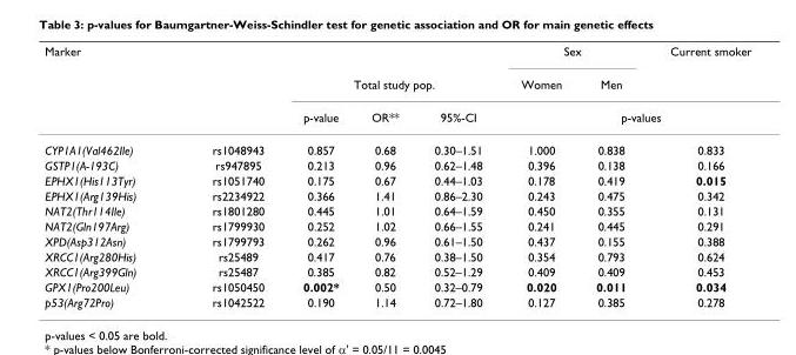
<table><thead><tr><td rowspan="3">Marker</td><td rowspan="3"></td><td></td><td></td><td></td><td colspan="2">Sex</td><td rowspan="2">Current smoker</td></tr><tr><td colspan="3">Total study pop.</td><td>Women</td><td>Men</td></tr><tr><td>p-value</td><td>OR**</td><td>95%-CI</td><td colspan="3">p-values</td></tr></thead><tbody><tr><td>CYP1A1(Val462Ile)</td><td>rs1048943</td><td>0.857</td><td>0.68</td><td>0.30–1.51</td><td>1.000</td><td>0.838</td><td>0.833</td></tr><tr><td>GSTP1(A-193C)</td><td>rs947895</td><td>0.213</td><td>0.96</td><td>0.62–1.48</td><td>0.396</td><td>0.138</td><td>0.166</td></tr><tr><td>EPHX1(His113Tyr)</td><td>rs1051740</td><td>0.175</td><td>0.67</td><td>0.44–1.03</td><td>0.178</td><td>0.419</td><td>0.015</td></tr><tr><td>EPHX1(Arg139His)</td><td>rs2234922</td><td>0.366</td><td>1.41</td><td>0.86–2.30</td><td>0.243</td><td>0.475</td><td>0.342</td></tr><tr><td>NAT2(Thr114Ile)</td><td>rs1801280</td><td>0.445</td><td>1.01</td><td>0.64–1.59</td><td>0.450</td><td>0.355</td><td>0.131</td></tr><tr><td>NAT2(Gln197Arg)</td><td>rs1799930</td><td>0.252</td><td>1.02</td><td>0.66–1.55</td><td>0.241</td><td>0.445</td><td>0.291</td></tr><tr><td>XPD(Asp312Asn)</td><td>rs1799793</td><td>0.262</td><td>0.96</td><td>0.61–1.50</td><td>0.437</td><td>0.155</td><td>0.388</td></tr><tr><td>XRCC1(Arg280His)</td><td>rs25489</td><td>0.417</td><td>0.76</td><td>0.38–1.50</td><td>0.354</td><td>0.793</td><td>0.624</td></tr><tr><td>XRCC1(Arg399Gln)</td><td>rs25487</td><td>0.385</td><td>0.82</td><td>0.52–1.29</td><td>0.409</td><td>0.409</td><td>0.453</td></tr><tr><td>GPX1(Pro200Leu)</td><td>rs1050450</td><td>0.002*</td><td>0.50</td><td>0.32–0.79</td><td>0.020</td><td>0.011</td><td>0.034</td></tr><tr><td>p53(Arg72Pro)</td><td>rs1042522</td><td>0.190</td><td>1.14</td><td>0.72–1.80</td><td>0.127</td><td>0.385</td><td>0.278</td></tr></tbody></table>